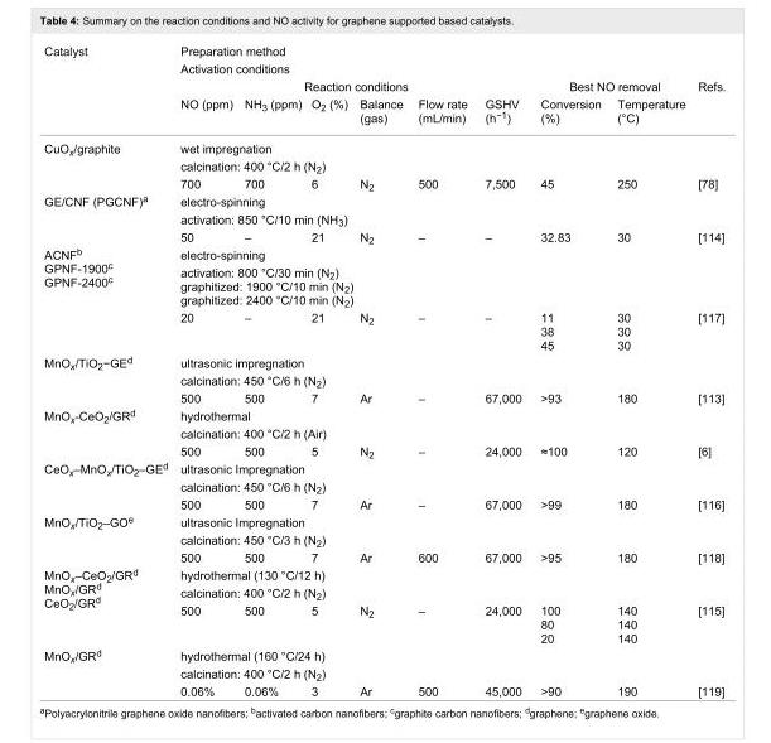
<table><tbody><tr><td rowspan="4">Catalyst</td><td colspan="9">Preparation method</td></tr><tr><td colspan="9">Activation conditions</td></tr><tr><td colspan="6">Reaction conditions</td><td colspan="2">Best NO removal</td><td rowspan="2">Refs.</td></tr><tr><td>NO (ppm)</td><td>NH<sub>3</sub> (ppm)</td><td>O<sub>2</sub> (%)</td><td>Balance (gas)</td><td>Flow rate (mL/min)</td><td>GSHV (h<sup>−1</sup>)</td><td>Conversion (%)</td><td>Temperature (°C)</td></tr><tr><td rowspan="3">CuO<sub>x</sub>/graphite</td><td colspan="9">wet impregnation</td></tr><tr><td colspan="9">calcination: 400 °C/2 h (N<sub>2</sub>)</td></tr><tr><td>700</td><td>700</td><td>6</td><td>N<sub>2</sub></td><td>500</td><td>7,500</td><td>45</td><td>250</td><td>[78]</td></tr><tr><td rowspan="3">GE/CNF (PGCNF)<sup>a</sup></td><td colspan="9">electro-spinning</td></tr><tr><td colspan="9">activation: 850 °C/10 min (NH<sub>3</sub>)</td></tr><tr><td>50</td><td>–</td><td>21</td><td>N<sub>2</sub></td><td>–</td><td>–</td><td>32.83</td><td>30</td><td>[114]</td></tr><tr><td rowspan="3">ACNF<sup>b</sup> GPNF-1900<sup>c</sup> GPNF-2400<sup>c</sup></td><td colspan="9">electro-spinning</td></tr><tr><td colspan="9">activation: 800 °C/30 min (N<sub>2</sub>) graphitized: 1900 °C/10 min (N<sub>2</sub>) graphitized: 2400 °C/10 min (N<sub>2</sub>)</td></tr><tr><td>20</td><td>–</td><td>21</td><td>N<sub>2</sub></td><td>–</td><td>–</td><td>11 38 45</td><td>30 30 30</td><td>[117]</td></tr><tr><td rowspan="3">MnO<sub>x</sub>/TiO<sub>2</sub>−GE<sup>d</sup></td><td colspan="9">ultrasonic impregnation</td></tr><tr><td colspan="9">calcination: 450 °C/6 h (N<sub>2</sub>)</td></tr><tr><td>500</td><td>500</td><td>7</td><td>Ar</td><td>–</td><td>67,000</td><td>&gt;93</td><td>180</td><td>[113]</td></tr><tr><td rowspan="3">MnO<sub>x</sub>-CeO<sub>2</sub>/GR<sup>d</sup></td><td colspan="9">hydrothermal</td></tr><tr><td colspan="9">calcination: 400 °C/2 h (Air)</td></tr><tr><td>500</td><td>500</td><td>5</td><td>N<sub>2</sub></td><td>–</td><td>24,000</td><td>≈100</td><td>120</td><td>[6]</td></tr><tr><td rowspan="3">CeO<sub>x</sub>–MnO<sub>x</sub>/TiO<sub>2</sub>–GE<sup>d</sup></td><td colspan="9">ultrasonic Impregnation</td></tr><tr><td colspan="9">calcination: 450 °C/6 h (N<sub>2</sub>)</td></tr><tr><td>500</td><td>500</td><td>7</td><td>Ar</td><td>–</td><td>67,000</td><td>&gt;99</td><td>180</td><td>[116]</td></tr><tr><td rowspan="3">MnO<sub>x</sub>/TiO<sub>2</sub>–GO<sup>e</sup></td><td colspan="9">ultrasonic Impregnation</td></tr><tr><td colspan="9">calcination: 450 °C/3 h (N<sub>2</sub>)</td></tr><tr><td>500</td><td>500</td><td>7</td><td>Ar</td><td>600</td><td>67,000</td><td>&gt;95</td><td>180</td><td>[118]</td></tr><tr><td rowspan="3">MnO<sub>x</sub>–CeO<sub>2</sub>/GR<sup>d</sup> MnO<sub>x</sub>/GR<sup>d</sup> CeO<sub>2</sub>/GR<sup>d</sup></td><td colspan="9">hydrothermal (130 °C/12 h)</td></tr><tr><td colspan="9">calcination: 400 °C/2 h (N<sub>2</sub>)</td></tr><tr><td>500</td><td>500</td><td>5</td><td>N<sub>2</sub></td><td>–</td><td>24,000</td><td>100 80 20</td><td>140 140 140</td><td>[115]</td></tr><tr><td rowspan="3">MnO<sub>x</sub>/GR<sup>d</sup></td><td colspan="9">hydrothermal (160 °C/24 h)</td></tr><tr><td colspan="9">calcination: 400 °C/2 h (N<sub>2</sub>)</td></tr><tr><td>0.06%</td><td>0.06%</td><td>3</td><td>Ar</td><td>500</td><td>45,000</td><td>&gt;90</td><td>190</td><td>[119]</td></tr></tbody></table>